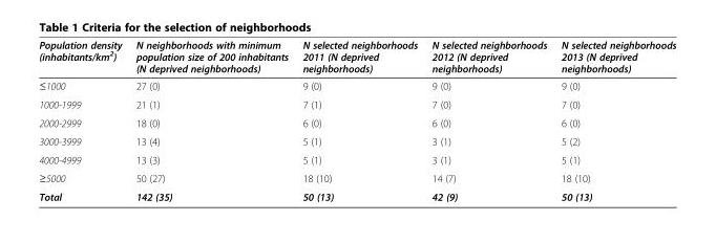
<table><thead><tr><td>Population density (inhabitants/km<sup>2</sup>)</td><td>N neighborhoods with minimum population size of 200 inhabitants (N deprived neighborhoods)</td><td>N selected neighborhoods 2011 (N deprived neighborhoods)</td><td>N selected neighborhoods 2012 (N deprived neighborhoods)</td><td>N selected neighborhoods 2013 (N deprived neighborhoods)</td></tr></thead><tbody><tr><td>≤1000</td><td>27 (0)</td><td>9 (0)</td><td>9 (0)</td><td>9 (0)</td></tr><tr><td>1000-1999</td><td>21 (1)</td><td>7 (1)</td><td>7 (0)</td><td>7 (0)</td></tr><tr><td>2000-2999</td><td>18 (0)</td><td>6 (0)</td><td>6 (0)</td><td>6 (0)</td></tr><tr><td>3000-3999</td><td>13 (4)</td><td>5 (1)</td><td>3 (1)</td><td>5 (2)</td></tr><tr><td>4000-4999</td><td>13 (3)</td><td>5 (1)</td><td>3 (1)</td><td>5 (1)</td></tr><tr><td>≥5000</td><td>50 (27)</td><td>18 (10)</td><td>14 (7)</td><td>18 (10)</td></tr><tr><td>Total</td><td>142 (35)</td><td>50 (13)</td><td>42 (9)</td><td>50 (13)</td></tr></tbody></table>